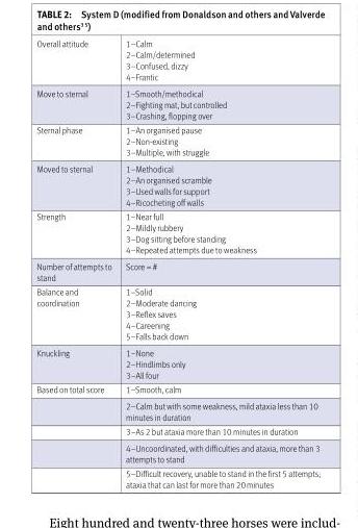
<table><tbody><tr><td>Overall attitude</td><td>1–Calm 2–Calm/determined 3–Confused, dizzy 4–Frantic</td></tr><tr><td>Move to sternal</td><td>1–Smooth/methodical 2–Fighting mat, but controlled 3–Crashing, flopping over</td></tr><tr><td>Sternal phase</td><td>1–An organised pause 2–Non-existing 3–Multiple, with struggle</td></tr><tr><td>Moved to sternal</td><td>1–Methodical 2–An organised scramble 3–Used walls for support 4–Ricocheting off walls</td></tr><tr><td>Strength</td><td>1–Near full 2–Mildly rubbery 3–Dog sitting before standing 4–Repeated attempts due to weakness</td></tr><tr><td>Number of attempts to stand</td><td>Score = #</td></tr><tr><td>Balance and coordination</td><td>1–Solid 2–Moderate dancing 3–Reflex saves 4–Careening 5–Falls back down</td></tr><tr><td>Knuckling</td><td>1–None 2–Hindlimbs only 3–All four</td></tr><tr><td rowspan="5">Based on total score</td><td>1–Smooth, calm</td></tr><tr><td>2–Calm but with some weakness, mild ataxia less than 10 minutes in duration</td></tr><tr><td>3–As 2 but ataxia more than 10 minutes in duration</td></tr><tr><td>4–Uncoordinated, with difficulties and ataxia, more than 3 attempts to stand</td></tr><tr><td>5–Difficult recovery, unable to stand in the first 5 attempts; ataxia that can last for more than 20 minutes</td></tr></tbody></table>